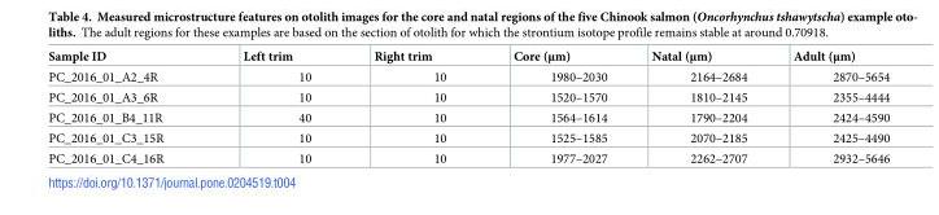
<table><thead><tr><td>Sample ID</td><td>Left trim</td><td>Right trim</td><td>Core (μm)</td><td>Natal (μm)</td><td>Adult (μm)</td></tr></thead><tbody><tr><td>PC_2016_01_A2_4R</td><td>10</td><td>10</td><td>1980–2030</td><td>2164–2684</td><td>2870–5654</td></tr><tr><td>PC_2016_01_A3_6R</td><td>10</td><td>10</td><td>1520–1570</td><td>1810–2145</td><td>2355–4444</td></tr><tr><td>PC_2016_01_B4_11R</td><td>40</td><td>10</td><td>1564–1614</td><td>1790–2204</td><td>2424–4590</td></tr><tr><td>PC_2016_01_C3_15R</td><td>10</td><td>10</td><td>1525–1585</td><td>2070–2185</td><td>2425–4490</td></tr><tr><td>PC_2016_01_C4_16R</td><td>10</td><td>10</td><td>1977–2027</td><td>2262–2707</td><td>2932–5646</td></tr></tbody></table>